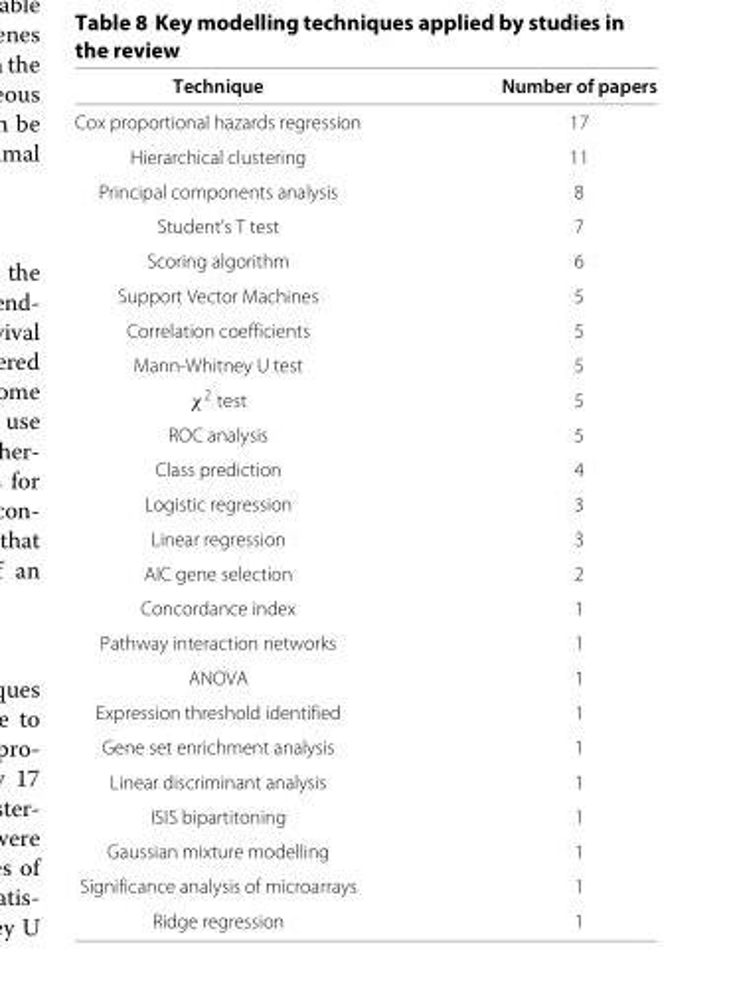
<table><thead><tr><td>Technique</td><td>Number of papers</td></tr></thead><tbody><tr><td>Cox proportional hazards regression</td><td>17</td></tr><tr><td>Hierarchical clustering</td><td>11</td></tr><tr><td>Principal components analysis</td><td>8</td></tr><tr><td>Student’s T test</td><td>7</td></tr><tr><td>Scoring algorithm</td><td>6</td></tr><tr><td>Support Vector Machines</td><td>5</td></tr><tr><td>Correlation coefficients</td><td>5</td></tr><tr><td>Mann-Whitney U test</td><td>5</td></tr><tr><td>χ<sup>2</sup> test</td><td>5</td></tr><tr><td>ROC analysis</td><td>5</td></tr><tr><td>Class prediction</td><td>4</td></tr><tr><td>Logistic regression</td><td>3</td></tr><tr><td>Linear regression</td><td>3</td></tr><tr><td>AIC gene selection</td><td>2</td></tr><tr><td>Concordance index</td><td>1</td></tr><tr><td>Pathway interaction networks</td><td>1</td></tr><tr><td>ANOVA</td><td>1</td></tr><tr><td>Expression threshold identified</td><td>1</td></tr><tr><td>Gene set enrichment analysis</td><td>1</td></tr><tr><td>Linear discriminant analysis</td><td>1</td></tr><tr><td>ISIS bipartitoning</td><td>1</td></tr><tr><td>Gaussian mixture modelling</td><td>1</td></tr><tr><td>Significance analysis of microarrays</td><td>1</td></tr><tr><td>Ridge regression</td><td>1</td></tr></tbody></table>